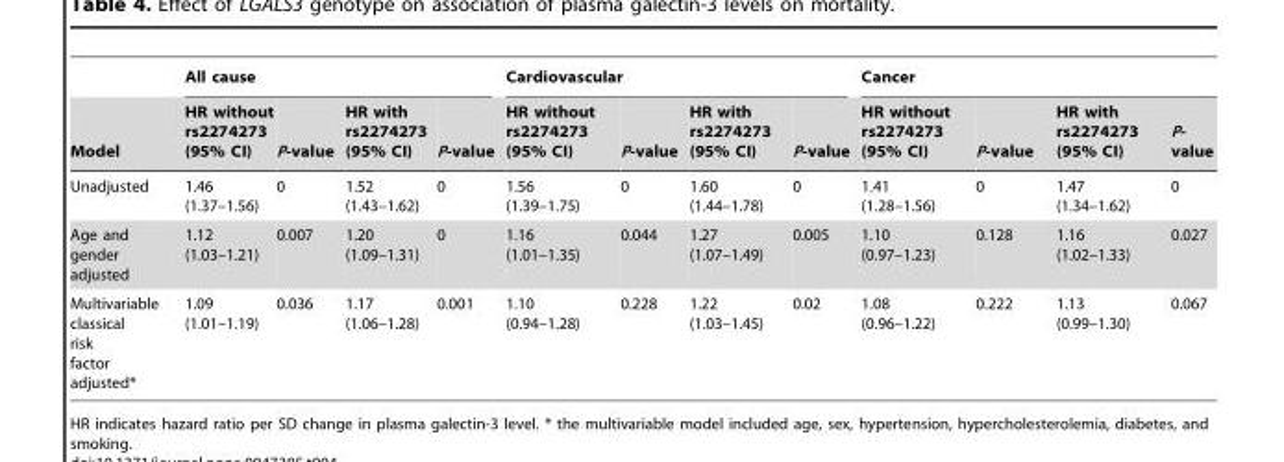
<table><thead><tr><td rowspan="2">Model</td><td colspan="4">All cause</td><td colspan="4">Cardiovascular</td><td colspan="4">Cancer</td></tr><tr><td>HR without rs2274273 (95% CI)</td><td>P-value</td><td>HR with rs2274273 (95% CI)</td><td>P-value</td><td>HR without rs2274273 (95% CI)</td><td>P-value</td><td>HR with rs2274273 (95% CI)</td><td>P-value</td><td>HR without rs2274273 (95% CI)</td><td>P-value</td><td>HR with rs2274273 (95% CI)</td><td>P- value</td></tr></thead><tbody><tr><td>Unadjusted</td><td>1.46 (1.37–1.56)</td><td>0</td><td>1.52 (1.43–1.62)</td><td>0</td><td>1.56 (1.39–1.75)</td><td>0</td><td>1.60 (1.44–1.78)</td><td>0</td><td>1.41 (1.28–1.56)</td><td>0</td><td>1.47 (1.34–1.62)</td><td>0</td></tr><tr><td>Age and gender adjusted</td><td>1.12 (1.03–1.21)</td><td>0.007</td><td>1.20 (1.09–1.31)</td><td>0</td><td>1.16 (1.01–1.35)</td><td>0.044</td><td>1.27 (1.07–1.49)</td><td>0.005</td><td>1.10 (0.97–1.23)</td><td>0.128</td><td>1.16 (1.02–1.33)</td><td>0.027</td></tr><tr><td>Multivariable classical risk factor adjusted*</td><td>1.09 (1.01–1.19)</td><td>0.036</td><td>1.17 (1.06–1.28)</td><td>0.001</td><td>1.10 (0.94–1.28)</td><td>0.228</td><td>1.22 (1.03–1.45)</td><td>0.02</td><td>1.08 (0.96–1.22)</td><td>0.222</td><td>1.13 (0.99–1.30)</td><td>0.067</td></tr></tbody></table>